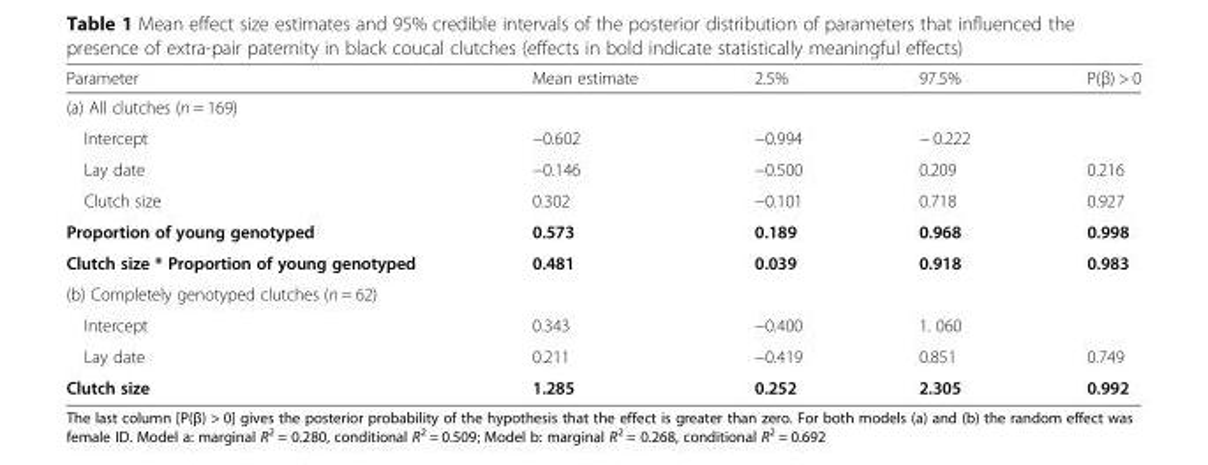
<table><thead><tr><td>Parameter</td><td>Mean estimate</td><td>2.5%</td><td>97.5%</td><td>P(β) &gt; 0</td></tr></thead><tbody><tr><td colspan="5">(a) All clutches (n = 169)</td></tr><tr><td>Intercept</td><td>−0.602</td><td>−0.994</td><td>− 0.222</td><td></td></tr><tr><td>Lay date</td><td>−0.146</td><td>−0.500</td><td>0.209</td><td>0.216</td></tr><tr><td>Clutch size</td><td>0.302</td><td>−0.101</td><td>0.718</td><td>0.927</td></tr><tr><td>Proportion of young genotyped</td><td>0.573</td><td>0.189</td><td>0.968</td><td>0.998</td></tr><tr><td>Clutch size * Proportion of young genotyped</td><td>0.481</td><td>0.039</td><td>0.918</td><td>0.983</td></tr><tr><td colspan="5">(b) Completely genotyped clutches (n = 62)</td></tr><tr><td>Intercept</td><td>0.343</td><td>−0.400</td><td>1. 060</td><td></td></tr><tr><td>Lay date</td><td>0.211</td><td>−0.419</td><td>0.851</td><td>0.749</td></tr><tr><td>Clutch size</td><td>1.285</td><td>0.252</td><td>2.305</td><td>0.992</td></tr></tbody></table>